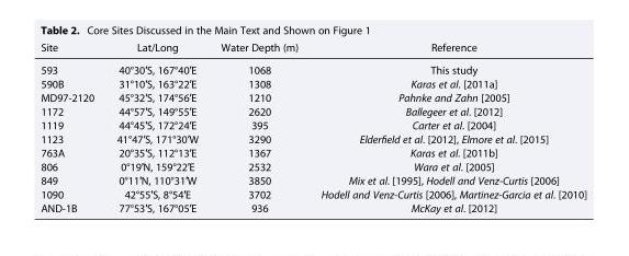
<table><thead><tr><td>Site</td><td>Lat/Long</td><td>Water Depth (m)</td><td>Reference</td></tr></thead><tbody><tr><td>593</td><td>40°30′S, 167°40′E</td><td>1068</td><td>This study</td></tr><tr><td>590B</td><td>31°10′S, 163°22′E</td><td>1308</td><td>Karas et al. [2011a]</td></tr><tr><td>MD97-2120</td><td>45°32′S, 174°56′E</td><td>1210</td><td>Pahnke and Zahn [2005]</td></tr><tr><td>1172</td><td>44°57′S, 149°55′E</td><td>2620</td><td>Ballegeer et al. [2012]</td></tr><tr><td>1119</td><td>44°45′S, 172°24′E</td><td>395</td><td>Carter et al. [2004]</td></tr><tr><td>1123</td><td>41°47′S, 171°30′W</td><td>3290</td><td>Elderfield et al. [2012], Elmore et al. [2015]</td></tr><tr><td>763A</td><td>20°35′S, 112°13′E</td><td>1367</td><td>Karas et al. [2011b]</td></tr><tr><td>806</td><td>0°19′N, 159°22′E</td><td>2532</td><td>Wara et al. [2005]</td></tr><tr><td>849</td><td>0°11′N, 110°31′W</td><td>3850</td><td>Mix et al. [1995], Hodell and Venz-Curtis [2006]</td></tr><tr><td>1090</td><td>42°55′S, 8°54′E</td><td>3702</td><td>Hodell and Venz-Curtis [2006], Martinez-Garcia et al. [2010]</td></tr><tr><td>AND-1B</td><td>77°53′S, 167°05′E</td><td>936</td><td>McKay et al. [2012]</td></tr></tbody></table>